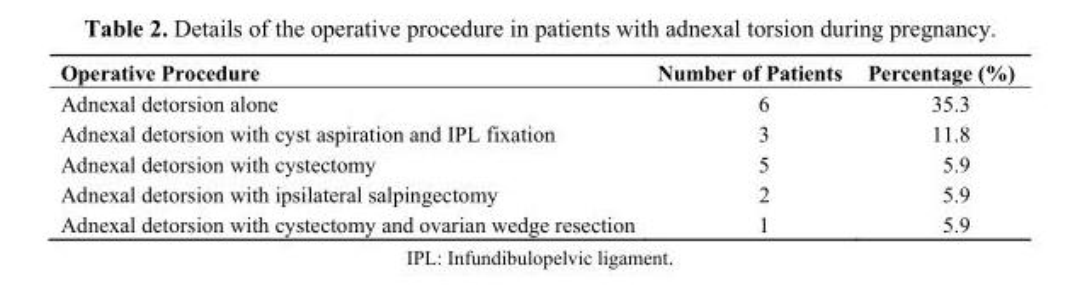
<table><thead><tr><td>Operative Procedure</td><td>Number of Patients</td><td>Percentage (%)</td></tr></thead><tbody><tr><td>Adnexal detorsion alone</td><td>6</td><td>35.3</td></tr><tr><td>Adnexal detorsion with cyst aspiration and IPL fixation</td><td>3</td><td>11.8</td></tr><tr><td>Adnexal detorsion with cystectomy</td><td>5</td><td>5.9</td></tr><tr><td>Adnexal detorsion with ipsilateral salpingectomy</td><td>2</td><td>5.9</td></tr><tr><td>Adnexal detorsion with cystectomy and ovarian wedge resection</td><td>1</td><td>5.9</td></tr></tbody></table>